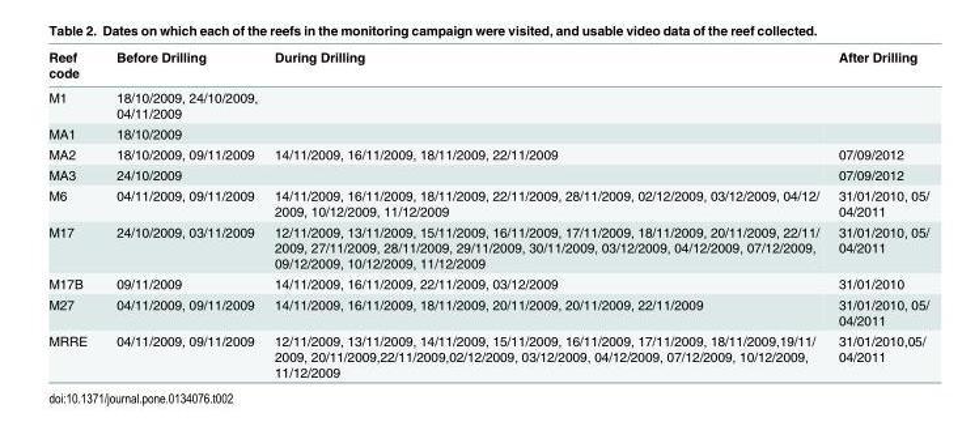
<table><thead><tr><td>Reef code</td><td>Before Drilling</td><td>During Drilling</td><td>After Drilling</td></tr></thead><tbody><tr><td>M1</td><td>18/10/2009, 24/10/2009, 04/11/2009</td><td></td><td></td></tr><tr><td>MA1</td><td>18/10/2009</td><td></td><td></td></tr><tr><td>MA2</td><td>18/10/2009, 09/11/2009</td><td>14/11/2009, 16/11/2009, 18/11/2009, 22/11/2009</td><td>07/09/2012</td></tr><tr><td>MA3</td><td>24/10/2009</td><td></td><td>07/09/2012</td></tr><tr><td>M6</td><td>04/11/2009, 09/11/2009</td><td>14/11/2009, 16/11/2009, 18/11/2009, 22/11/2009, 28/11/2009, 02/12/2009, 03/12/2009, 04/12/ 2009, 10/12/2009, 11/12/2009</td><td>31/01/2010, 05/ 04/2011</td></tr><tr><td>M17</td><td>24/10/2009, 03/11/2009</td><td>12/11/2009, 13/11/2009, 15/11/2009, 16/11/2009, 17/11/2009, 18/11/2009, 20/11/2009, 22/11/ 2009, 27/11/2009, 28/11/2009, 29/11/2009, 30/11/2009, 03/12/2009, 04/12/2009, 07/12/2009, 09/12/2009, 10/12/2009, 11/12/2009</td><td>31/01/2010, 05/ 04/2011</td></tr><tr><td>M17B</td><td>09/11/2009</td><td>14/11/2009, 16/11/2009, 22/11/2009, 03/12/2009</td><td>31/01/2010</td></tr><tr><td>M27</td><td>04/11/2009, 09/11/2009</td><td>14/11/2009, 16/11/2009, 18/11/2009, 20/11/2009, 20/11/2009, 22/11/2009</td><td>31/01/2010, 05/ 04/2011</td></tr><tr><td>MRRE</td><td>04/11/2009, 09/11/2009</td><td>12/11/2009, 13/11/2009, 14/11/2009, 15/11/2009, 16/11/2009, 17/11/2009, 18/11/2009,19/11/ 2009, 20/11/2009,22/11/2009,02/12/2009, 03/12/2009, 04/12/2009, 07/12/2009, 10/12/2009, 11/12/2009</td><td>31/01/2010,05/ 04/2011</td></tr></tbody></table>